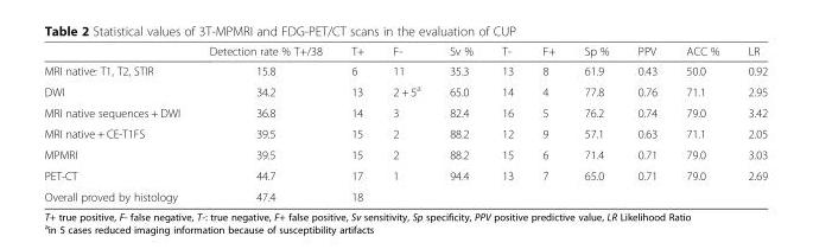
<table><thead><tr><td></td><td>Detection rate % T+/38</td><td>T+</td><td>F-</td><td>Sv %</td><td>T-</td><td>F+</td><td>Sp %</td><td>PPV</td><td>ACC %</td><td>LR</td></tr></thead><tbody><tr><td>MRI native: T1, T2, STIR</td><td>15.8</td><td>6</td><td>11</td><td>35.3</td><td>13</td><td>8</td><td>61.9</td><td>0.43</td><td>50.0</td><td>0.92</td></tr><tr><td>DWI</td><td>34.2</td><td>13</td><td>2 + 5<sup>a</sup></td><td>65.0</td><td>14</td><td>4</td><td>77.8</td><td>0.76</td><td>71.1</td><td>2.95</td></tr><tr><td>MRI native sequences + DWI</td><td>36.8</td><td>14</td><td>3</td><td>82.4</td><td>16</td><td>5</td><td>76.2</td><td>0.74</td><td>79.0</td><td>3.42</td></tr><tr><td>MRI native + CE-T1FS</td><td>39.5</td><td>15</td><td>2</td><td>88.2</td><td>12</td><td>9</td><td>57.1</td><td>0.63</td><td>71.1</td><td>2.05</td></tr><tr><td>MPMRI</td><td>39.5</td><td>15</td><td>2</td><td>88.2</td><td>15</td><td>6</td><td>71.4</td><td>0.71</td><td>79.0</td><td>3.03</td></tr><tr><td>PET-CT</td><td>44.7</td><td>17</td><td>1</td><td>94.4</td><td>13</td><td>7</td><td>65.0</td><td>0.71</td><td>79.0</td><td>2.69</td></tr><tr><td>Overall proved by histology</td><td>47.4</td><td>18</td><td></td><td></td><td></td><td></td><td></td><td></td><td></td><td></td></tr></tbody></table>